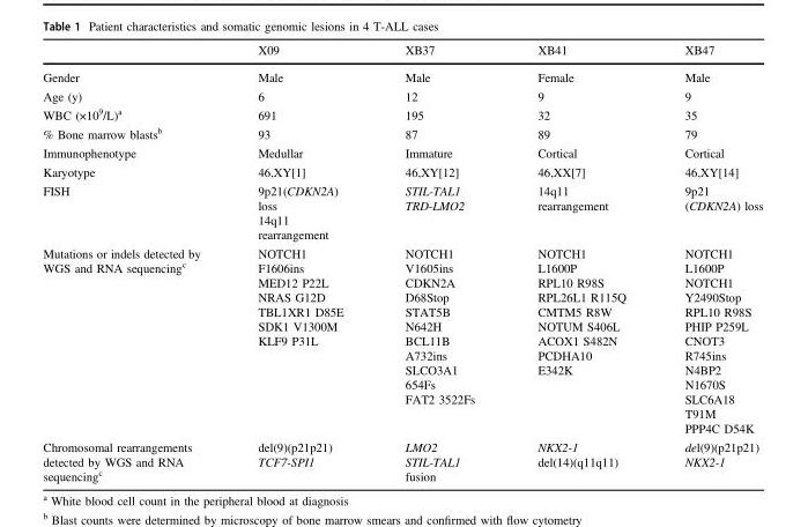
<table><thead><tr><td></td><td>X09</td><td>XB37</td><td>XB41</td><td>XB47</td></tr></thead><tbody><tr><td>Gender</td><td>Male</td><td>Male</td><td>Female</td><td>Male</td></tr><tr><td>Age (y)</td><td>6</td><td>12</td><td>9</td><td>9</td></tr><tr><td>WBC (×10<sup>9</sup>/L)<sup>a</sup></td><td>691</td><td>195</td><td>32</td><td>35</td></tr><tr><td>% Bone marrow blasts<sup>b</sup></td><td>93</td><td>87</td><td>89</td><td>79</td></tr><tr><td>Immunophenotype</td><td>Medullar</td><td>Immature</td><td>Cortical</td><td>Cortical</td></tr><tr><td>Karyotype</td><td>46,XY[1]</td><td>46,XY[12]</td><td>46,XX[7]</td><td>46,XY[14]</td></tr><tr><td>FISH</td><td>9p21(CDKN2A) loss 14q11 rearrangement</td><td>STIL-TAL1 TRD-LMO2</td><td>14q11 rearrangement</td><td>9p21 (CDKN2A) loss</td></tr><tr><td>Mutations or indels detected by WGS and RNA sequencing<sup>c</sup></td><td>NOTCH1 F1606ins MED12 P22L NRAS G12D TBL1XR1 D85E SDK1 V1300M KLF9 P31L</td><td>NOTCH1 V1605ins CDKN2A D68Stop STAT5B N642H BCL11B A732ins SLCO3A1 654Fs FAT2 3522Fs</td><td>NOTCH1 L1600P RPL10 R98S RPL26L1 R115Q CMTM5 R8W NOTUM S406L ACOX1 S482N PCDHA10 E342K</td><td>NOTCH1 L1600P NOTCH1 Y2490Stop RPL10 R98S PHIP P259L CNOT3 R745ins N4BP2 N1670S SLC6A18 T91M PPP4C D54K</td></tr><tr><td>Chromosomal rearrangements detected by WGS and RNA sequencing<sup>c</sup></td><td>del(9)(p21p21) TCF7-SPI1</td><td>LMO2 STIL-TAL1 fusion</td><td>NKX2-1 del(14)(q11q11)</td><td>del(9)(p21p21) NKX2-1</td></tr></tbody></table>